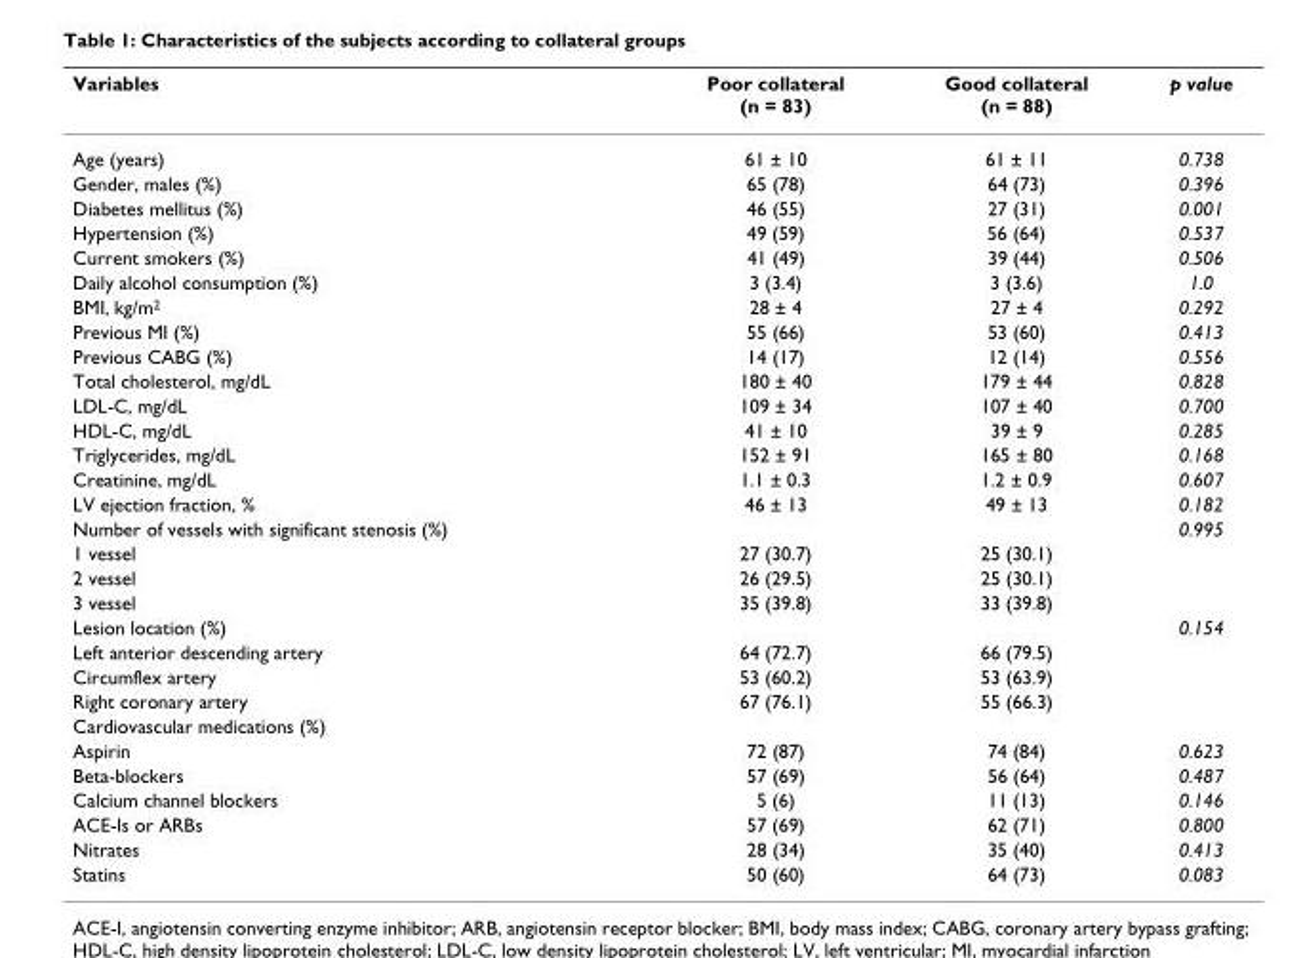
<table><thead><tr><td>Variables</td><td>Poor collateral (n = 83)</td><td>Good collateral (n = 88)</td><td>p value</td></tr></thead><tbody><tr><td>Age (years)</td><td>61 ± 10</td><td>61 ± 11</td><td>0.738</td></tr><tr><td>Gender, males (%)</td><td>65 (78)</td><td>64 (73)</td><td>0.396</td></tr><tr><td>Diabetes mellitus (%)</td><td>46 (55)</td><td>27 (31)</td><td>0.001</td></tr><tr><td>Hypertension (%)</td><td>49 (59)</td><td>56 (64)</td><td>0.537</td></tr><tr><td>Current smokers (%)</td><td>41 (49)</td><td>39 (44)</td><td>0.506</td></tr><tr><td>Daily alcohol consumption (%)</td><td>3 (3.4)</td><td>3 (3.6)</td><td>1.0</td></tr><tr><td>BMI, kg/m<sup>2</sup></td><td>28 ± 4</td><td>27 ± 4</td><td>0.292</td></tr><tr><td>Previous MI (%)</td><td>55 (66)</td><td>53 (60)</td><td>0.413</td></tr><tr><td>Previous CABG (%)</td><td>14 (17)</td><td>12 (14)</td><td>0.556</td></tr><tr><td>Total cholesterol, mg/dL</td><td>180 ± 40</td><td>179 ± 44</td><td>0.828</td></tr><tr><td>LDL-C, mg/dL</td><td>109 ± 34</td><td>107 ± 40</td><td>0.700</td></tr><tr><td>HDL-C, mg/dL</td><td>41 ± 10</td><td>39 ± 9</td><td>0.285</td></tr><tr><td>Triglycerides, mg/dL</td><td>152 ± 91</td><td>165 ± 80</td><td>0.168</td></tr><tr><td>Creatinine, mg/dL</td><td>1.1 ± 0.3</td><td>1.2 ± 0.9</td><td>0.607</td></tr><tr><td>LV ejection fraction, %</td><td>46 ± 13</td><td>49 ± 13</td><td>0.182</td></tr><tr><td>Number of vessels with significant stenosis (%)</td><td></td><td></td><td>0.995</td></tr><tr><td>1 vessel</td><td>27 (30.7)</td><td>25 (30.1)</td><td></td></tr><tr><td>2 vessel</td><td>26 (29.5)</td><td>25 (30.1)</td><td></td></tr><tr><td>3 vessel</td><td>35 (39.8)</td><td>33 (39.8)</td><td></td></tr><tr><td>Lesion location (%)</td><td></td><td></td><td>0.154</td></tr><tr><td>Left anterior descending artery</td><td>64 (72.7)</td><td>66 (79.5)</td><td></td></tr><tr><td>Circumflex artery</td><td>53 (60.2)</td><td>53 (63.9)</td><td></td></tr><tr><td>Right coronary artery</td><td>67 (76.1)</td><td>55 (66.3)</td><td></td></tr><tr><td colspan="4">Cardiovascular medications (%)</td></tr><tr><td>Aspirin</td><td>72 (87)</td><td>74 (84)</td><td>0.623</td></tr><tr><td>Beta-blockers</td><td>57 (69)</td><td>56 (64)</td><td>0.487</td></tr><tr><td>Calcium channel blockers</td><td>5 (6)</td><td>11 (13)</td><td>0.146</td></tr><tr><td>ACE-Is or ARBs</td><td>57 (69)</td><td>62 (71)</td><td>0.800</td></tr><tr><td>Nitrates</td><td>28 (34)</td><td>35 (40)</td><td>0.413</td></tr><tr><td>Statins</td><td>50 (60)</td><td>64 (73)</td><td>0.083</td></tr></tbody></table>